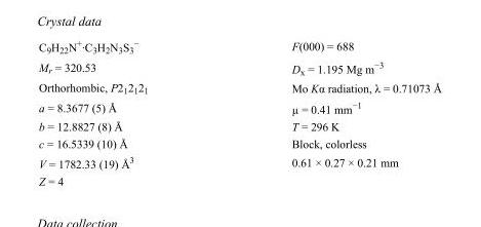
<table><tbody><tr><td>C<sub>9</sub>H<sub>22</sub>N<sup>+</sup>·C<sub>3</sub>H<sub>2</sub>N<sub>3</sub>S<sub>3</sub> <sup>−</sup></td><td>F(000) = 688</td></tr><tr><td>M<sub>r</sub> = 320.53</td><td>D<sub>x</sub> = 1.195 Mg m<sup>−3</sup></td></tr><tr><td>Orthorhombic, P2<sub>1</sub>2<sub>1</sub>2<sub>1</sub></td><td>Mo Kα radiation, λ = 0.71073 Å</td></tr><tr><td>a = 8.3677 (5) Å</td><td>µ = 0.41 mm<sup>−1</sup></td></tr><tr><td>b = 12.8827 (8) Å</td><td>T = 296 K</td></tr><tr><td>c = 16.5339 (10) Å</td><td>Block, colorless</td></tr><tr><td>V = 1782.33 (19) Å<sup>3</sup></td><td>0.61 × 0.27 × 0.21 mm</td></tr><tr><td>Z = 4</td><td></td></tr></tbody></table>